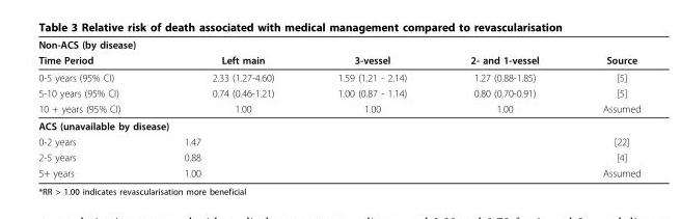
<table><thead><tr><td colspan="4">Non-ACS (by disease)</td><td rowspan="2">Source</td></tr><tr><td>Time Period</td><td>Left main</td><td>3-vessel</td><td>2- and 1-vessel</td></tr></thead><tbody><tr><td>0-5 years (95% CI)</td><td>2.33 (1.27-4.60)</td><td>1.59 (1.21 - 2.14)</td><td>1.27 (0.88-1.85)</td><td>[5]</td></tr><tr><td>5-10 years (95% CI)</td><td>0.74 (0.46-1.21)</td><td>1.00 (0.87 - 1.14)</td><td>0.80 (0.70-0.91)</td><td>[5]</td></tr><tr><td>10 + years (95% CI)</td><td>1.00</td><td>1.00</td><td>1.00</td><td>Assumed</td></tr><tr><td colspan="5">ACS (unavailable by disease)</td></tr><tr><td>0-2 years</td><td colspan="3">1.47</td><td>[22]</td></tr><tr><td>2-5 years</td><td colspan="3">0.88</td><td>[4]</td></tr><tr><td>5+ years</td><td colspan="3">1.00</td><td>Assumed</td></tr></tbody></table>